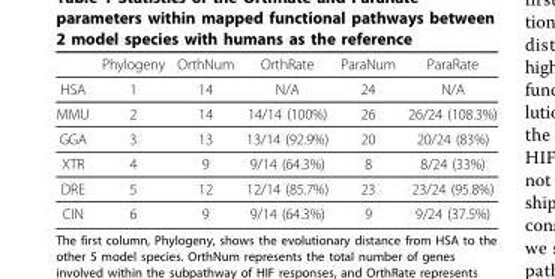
<table><thead><tr><td></td><td>Phylogeny</td><td>OrthNum</td><td>OrthRate</td><td>ParaNum</td><td>ParaRate</td></tr></thead><tbody><tr><td>HSA</td><td>1</td><td>14</td><td>N/A</td><td>24</td><td>N/A</td></tr><tr><td>MMU</td><td>2</td><td>14</td><td>14/14 (100%)</td><td>26</td><td>26/24 (108.3%)</td></tr><tr><td>GGA</td><td>3</td><td>13</td><td>13/14 (92.9%)</td><td>20</td><td>20/24 (83%)</td></tr><tr><td>XTR</td><td>4</td><td>9</td><td>9/14 (64.3%)</td><td>8</td><td>8/24 (33%)</td></tr><tr><td>DRE</td><td>5</td><td>12</td><td>12/14 (85.7%)</td><td>23</td><td>23/24 (95.8%)</td></tr><tr><td>CIN</td><td>6</td><td>9</td><td>9/14 (64.3%)</td><td>9</td><td>9/24 (37.5%)</td></tr></tbody></table>